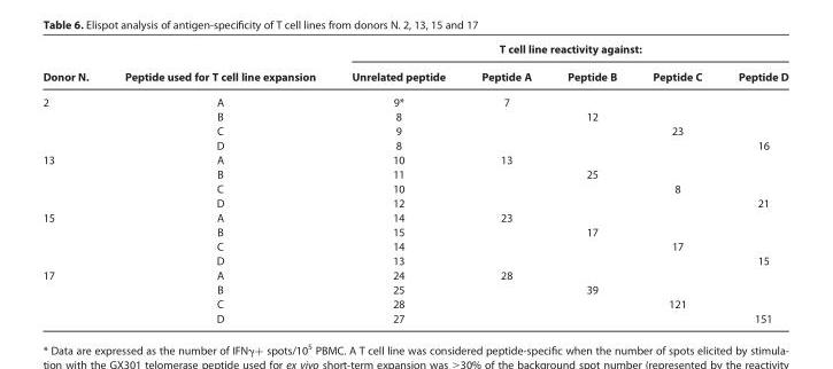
<table><thead><tr><td rowspan="2">Donor N.</td><td rowspan="2">Peptide used for T cell line expansion</td><td colspan="5">T cell line reactivity against:</td></tr><tr><td>Unrelated peptide</td><td>Peptide A</td><td>Peptide B</td><td>Peptide C</td><td>Peptide D</td></tr></thead><tbody><tr><td rowspan="4">2</td><td>A</td><td>9*</td><td>7</td><td></td><td></td><td></td></tr><tr><td>B</td><td>8</td><td></td><td>12</td><td></td><td></td></tr><tr><td>C</td><td>9</td><td></td><td></td><td>23</td><td></td></tr><tr><td>D</td><td>8</td><td></td><td></td><td></td><td>16</td></tr><tr><td rowspan="4">13</td><td>A</td><td>10</td><td>13</td><td></td><td></td><td></td></tr><tr><td>B</td><td>11</td><td></td><td>25</td><td></td><td></td></tr><tr><td>C</td><td>10</td><td></td><td></td><td>8</td><td></td></tr><tr><td>D</td><td>12</td><td></td><td></td><td></td><td>21</td></tr><tr><td rowspan="4">15</td><td>A</td><td>14</td><td>23</td><td></td><td></td><td></td></tr><tr><td>B</td><td>15</td><td></td><td>17</td><td></td><td></td></tr><tr><td>C</td><td>14</td><td></td><td></td><td>17</td><td></td></tr><tr><td>D</td><td>13</td><td></td><td></td><td></td><td>15</td></tr><tr><td rowspan="4">17</td><td>A</td><td>24</td><td>28</td><td></td><td></td><td></td></tr><tr><td>B</td><td>25</td><td></td><td>39</td><td></td><td></td></tr><tr><td>C</td><td>28</td><td></td><td></td><td>121</td><td></td></tr><tr><td>D</td><td>27</td><td></td><td></td><td></td><td>151</td></tr></tbody></table>